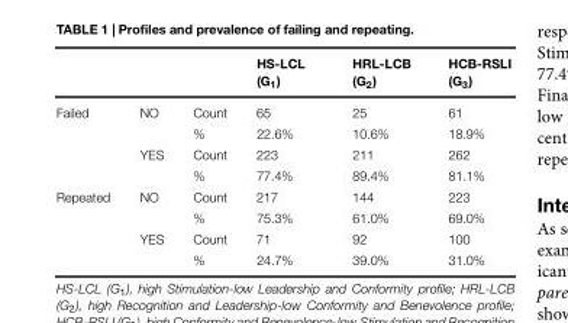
<table><thead><tr><td></td><td></td><td></td><td>HS-LCL (G<sub>1</sub>)</td><td>HRL-LCB (G<sub>2</sub>)</td><td>HCB-RSLI (G<sub>3</sub>)</td></tr></thead><tbody><tr><td rowspan="4">Failed</td><td>NO</td><td>Count</td><td>65</td><td>25</td><td>61</td></tr><tr><td></td><td>%</td><td>22.6%</td><td>10.6%</td><td>18.9%</td></tr><tr><td>YES</td><td>Count</td><td>223</td><td>211</td><td>262</td></tr><tr><td></td><td>%</td><td>77.4%</td><td>89.4%</td><td>81.1%</td></tr><tr><td rowspan="4">Repeated</td><td>NO</td><td>Count</td><td>217</td><td>144</td><td>223</td></tr><tr><td></td><td>%</td><td>75.3%</td><td>61.0%</td><td>69.0%</td></tr><tr><td>YES</td><td>Count</td><td>71</td><td>92</td><td>100</td></tr><tr><td></td><td>%</td><td>24.7%</td><td>39.0%</td><td>31.0%</td></tr></tbody></table>